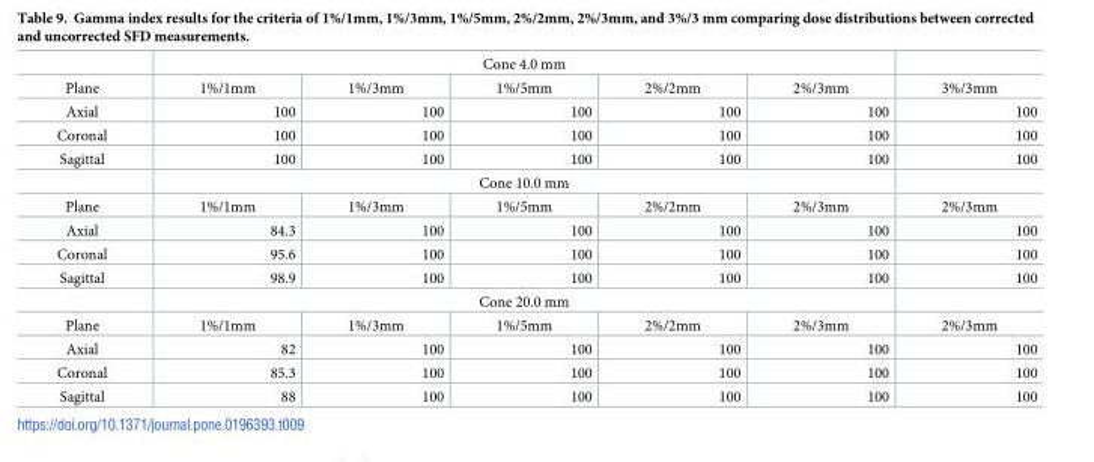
<table><thead><tr><td rowspan="2">Plane</td><td colspan="5">Cone 4.0 mm</td><td rowspan="2">3%/3mm</td></tr><tr><td>1%/1mm</td><td>1%/3mm</td><td>1%/5mm</td><td>2%/2mm</td><td>2%/3mm</td></tr></thead><tbody><tr><td>Axial</td><td>100</td><td>100</td><td>100</td><td>100</td><td>100</td><td>100</td></tr><tr><td>Coronal</td><td>100</td><td>100</td><td>100</td><td>100</td><td>100</td><td>100</td></tr><tr><td rowspan="2">Sagittal</td><td>100</td><td>100</td><td>100</td><td>100</td><td>100</td><td>100</td></tr><tr><td colspan="5">Cone 10.0 mm</td><td></td></tr><tr><td>Plane</td><td>1%/1mm</td><td>1%/3mm</td><td>1%/5mm</td><td>2%/2mm</td><td>2%/3mm</td><td>2%/3mm</td></tr><tr><td>Axial</td><td>84.3</td><td>100</td><td>100</td><td>100</td><td>100</td><td>100</td></tr><tr><td>Coronal</td><td>95.6</td><td>100</td><td>100</td><td>100</td><td>100</td><td>100</td></tr><tr><td rowspan="2">Sagittal</td><td>98.9</td><td>100</td><td>100</td><td>100</td><td>100</td><td>100</td></tr><tr><td colspan="5">Cone 20.0 mm</td><td></td></tr><tr><td>Plane</td><td>1%/1mm</td><td>1%/3mm</td><td>1%/5mm</td><td>2%/2mm</td><td>2%/3mm</td><td>2%/3mm</td></tr><tr><td>Axial</td><td>82</td><td>100</td><td>100</td><td>100</td><td>100</td><td>100</td></tr><tr><td>Coronal</td><td>85.3</td><td>100</td><td>100</td><td>100</td><td>100</td><td>100</td></tr><tr><td>Sagittal</td><td>88</td><td>100</td><td>100</td><td>100</td><td>100</td><td>100</td></tr></tbody></table>